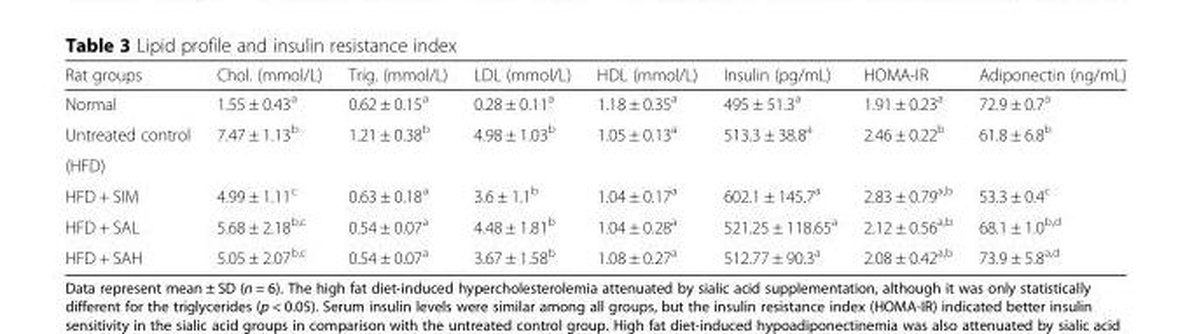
<table><thead><tr><td>Rat groups</td><td>Chol. (mmol/L)</td><td>Trig. (mmol/L)</td><td>LDL (mmol/L)</td><td>HDL (mmol/L)</td><td>Insulin (pg/mL)</td><td>HOMA-IR</td><td>Adiponectin (ng/mL)</td></tr></thead><tbody><tr><td>Normal</td><td>1.55 ± 0.43<sup>a</sup></td><td>0.62 ± 0.15<sup>a</sup></td><td>0.28 ± 0.11<sup>a</sup></td><td>1.18 ± 0.35<sup>a</sup></td><td>495 ± 51.3<sup>a</sup></td><td>1.91 ± 0.23<sup>a</sup></td><td>72.9 ± 0.7<sup>a</sup></td></tr><tr><td>Untreated control</td><td rowspan="2">7.47 ± 1.13<sup>b</sup></td><td rowspan="2">1.21 ± 0.38<sup>b</sup></td><td rowspan="2">4.98 ± 1.03<sup>b</sup></td><td rowspan="2">1.05 ± 0.13<sup>a</sup></td><td rowspan="2">513.3 ± 38.8<sup>a</sup></td><td rowspan="2">2.46 ± 0.22<sup>b</sup></td><td rowspan="2">61.8 ± 6.8<sup>b</sup></td></tr><tr><td>(HFD)</td></tr><tr><td>HFD + SIM</td><td>4.99 ± 1.11<sup>c</sup></td><td>0.63 ± 0.18<sup>a</sup></td><td>3.6 ± 1.1<sup>b</sup></td><td>1.04 ± 0.17<sup>a</sup></td><td>602.1 ± 145.7<sup>a</sup></td><td>2.83 ± 0.79<sup>a,b</sup></td><td>53.3 ± 0.4<sup>c</sup></td></tr><tr><td>HFD + SAL</td><td>5.68 ± 2.18<sup>b,c</sup></td><td>0.54 ± 0.07<sup>a</sup></td><td>4.48 ± 1.81<sup>b</sup></td><td>1.04 ± 0.28<sup>a</sup></td><td>521.25 ± 118.65<sup>a</sup></td><td>2.12 ± 0.56<sup>a,b</sup></td><td>68.1 ± 1.0<sup>b,d</sup></td></tr><tr><td>HFD + SAH</td><td>5.05 ± 2.07<sup>b,c</sup></td><td>0.54 ± 0.07<sup>a</sup></td><td>3.67 ± 1.58<sup>b</sup></td><td>1.08 ± 0.27<sup>a</sup></td><td>512.77 ± 90.3<sup>a</sup></td><td>2.08 ± 0.42<sup>a,b</sup></td><td>73.9 ± 5.8<sup>a,d</sup></td></tr></tbody></table>